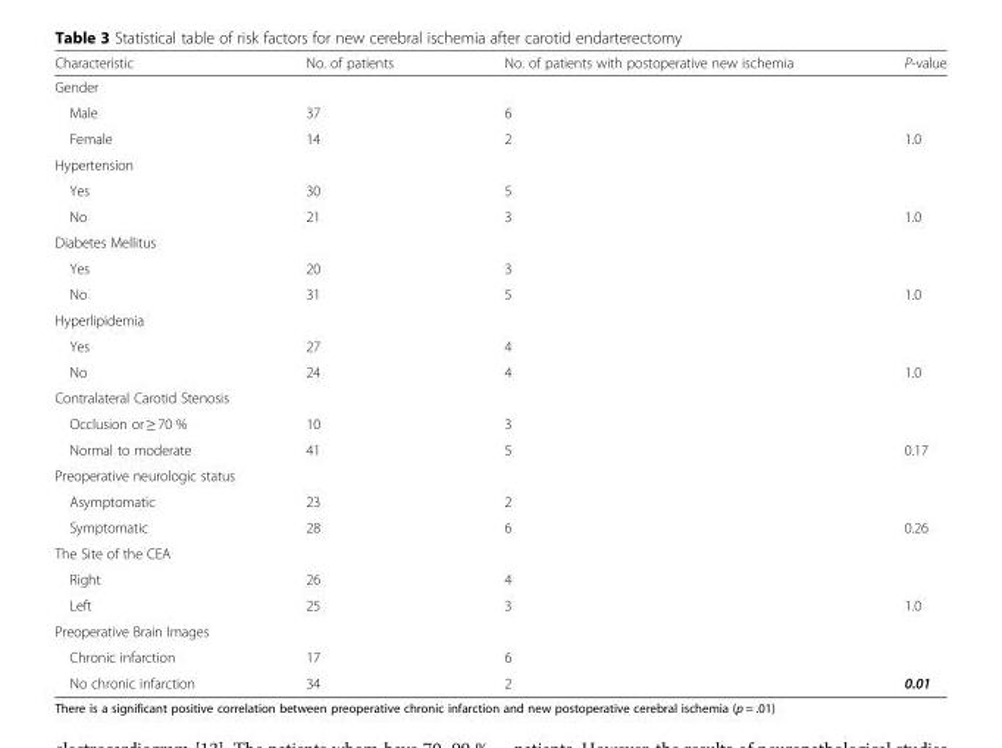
<table><thead><tr><td>Characteristic</td><td>No. of patients</td><td>No. of patients with postoperative new ischemia</td><td>P-value</td></tr></thead><tbody><tr><td colspan="4">Gender</td></tr><tr><td>Male</td><td>37</td><td>6</td><td></td></tr><tr><td>Female</td><td>14</td><td>2</td><td>1.0</td></tr><tr><td colspan="4">Hypertension</td></tr><tr><td>Yes</td><td>30</td><td>5</td><td></td></tr><tr><td>No</td><td>21</td><td>3</td><td>1.0</td></tr><tr><td colspan="4">Diabetes Mellitus</td></tr><tr><td>Yes</td><td>20</td><td>3</td><td></td></tr><tr><td>No</td><td>31</td><td>5</td><td>1.0</td></tr><tr><td colspan="4">Hyperlipidemia</td></tr><tr><td>Yes</td><td>27</td><td>4</td><td></td></tr><tr><td>No</td><td>24</td><td>4</td><td>1.0</td></tr><tr><td colspan="4">Contralateral Carotid Stenosis</td></tr><tr><td>Occlusion or ≥ 70 %</td><td>10</td><td>3</td><td></td></tr><tr><td>Normal to moderate</td><td>41</td><td>5</td><td>0.17</td></tr><tr><td colspan="4">Preoperative neurologic status</td></tr><tr><td>Asymptomatic</td><td>23</td><td>2</td><td></td></tr><tr><td>Symptomatic</td><td>28</td><td>6</td><td>0.26</td></tr><tr><td colspan="4">The Site of the CEA</td></tr><tr><td>Right</td><td>26</td><td>4</td><td></td></tr><tr><td>Left</td><td>25</td><td>3</td><td>1.0</td></tr><tr><td colspan="4">Preoperative Brain Images</td></tr><tr><td>Chronic infarction</td><td>17</td><td>6</td><td></td></tr><tr><td>No chronic infarction</td><td>34</td><td>2</td><td>0.01</td></tr></tbody></table>